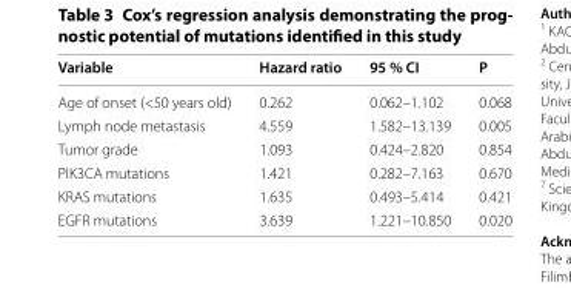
<table><thead><tr><td>Variable</td><td>Hazard ratio</td><td>95 % CI</td><td>P</td></tr></thead><tbody><tr><td>Age of onset (&lt;50 years old)</td><td>0.262</td><td>0.062–1.102</td><td>0.068</td></tr><tr><td>Lymph node metastasis</td><td>4.559</td><td>1.582–13.139</td><td>0.005</td></tr><tr><td>Tumor grade</td><td>1.093</td><td>0.424–2.820</td><td>0.854</td></tr><tr><td>PIK3CA mutations</td><td>1.421</td><td>0.282–7.163</td><td>0.670</td></tr><tr><td>KRAS mutations</td><td>1.635</td><td>0.493–5.414</td><td>0.421</td></tr><tr><td>EGFR mutations</td><td>3.639</td><td>1.221–10.850</td><td>0.020</td></tr></tbody></table>